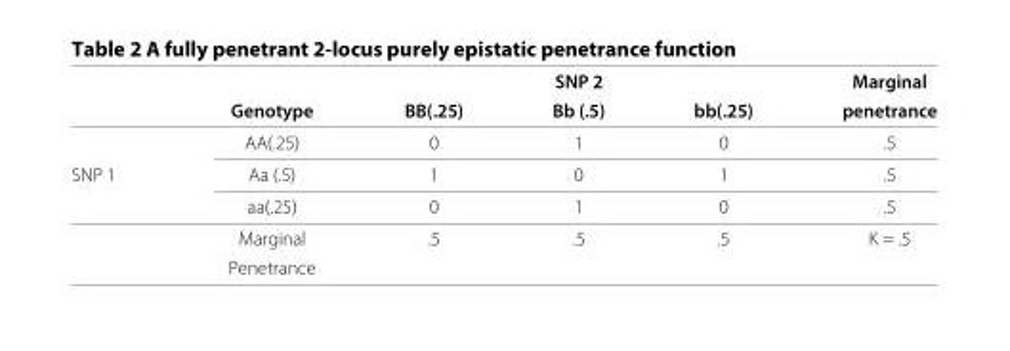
<table><thead><tr><td rowspan="2"></td><td rowspan="2">Genotype</td><td colspan="3">SNP 2</td><td rowspan="2">Marginal penetrance</td></tr><tr><td>BB(.25)</td><td>Bb (.5)</td><td>bb(.25)</td></tr></thead><tbody><tr><td></td><td>AA(.25)</td><td>0</td><td>1</td><td>0</td><td>.5</td></tr><tr><td rowspan="4">SNP 1</td><td>Aa (.5)</td><td>1</td><td>0</td><td>1</td><td>.5</td></tr><tr><td>aa(.25)</td><td>0</td><td>1</td><td>0</td><td>.5</td></tr><tr><td>Marginal</td><td>.5</td><td>.5</td><td>.5</td><td>K = .5</td></tr><tr><td>Penetrance</td><td></td><td></td><td></td><td></td></tr></tbody></table>